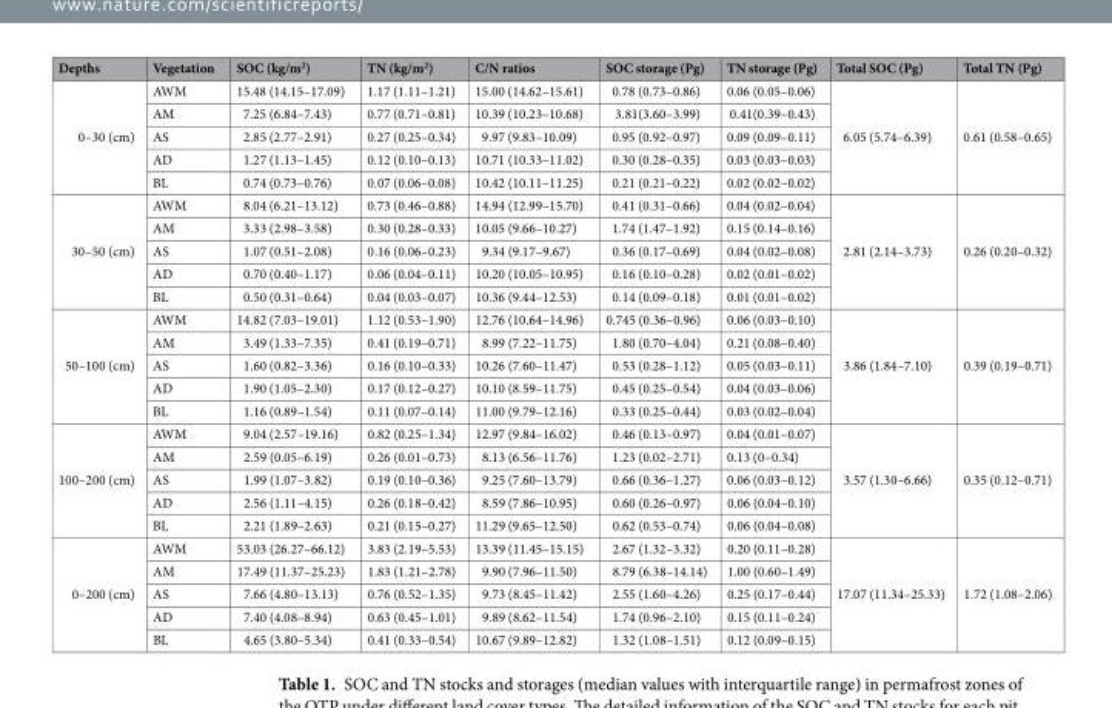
<table><thead><tr><td>Depths</td><td>Vegetation</td><td>SOC (kg/m<sup>2</sup>)</td><td>TN (kg/m<sup>2</sup>)</td><td>C/N ratios</td><td>SOC storage (Pg)</td><td>TN storage (Pg)</td><td>Total SOC (Pg)</td><td>Total TN (Pg)</td></tr></thead><tbody><tr><td rowspan="5">0–30 (cm)</td><td>AWM</td><td>15.48 (14.15–17.09)</td><td>1.17 (1.11–1.21)</td><td>15.00 (14.62–15.61)</td><td>0.78 (0.73–0.86)</td><td>0.06 (0.05–0.06)</td><td rowspan="5">6.05 (5.74–6.39)</td><td rowspan="5">0.61 (0.58–0.65)</td></tr><tr><td>AM</td><td>7.25 (6.84–7.43)</td><td>0.77 (0.71–0.81)</td><td>10.39 (10.23–10.68)</td><td>3.81(3.60–3.99)</td><td>0.41(0.39–0.43)</td></tr><tr><td>AS</td><td>2.85 (2.77–2.91)</td><td>0.27 (0.25–0.34)</td><td>9.97 (9.83–10.09)</td><td>0.95 (0.92–0.97)</td><td>0.09 (0.09–0.11)</td></tr><tr><td>AD</td><td>1.27 (1.13–1.45)</td><td>0.12 (0.10–0.13)</td><td>10.71 (10.33–11.02)</td><td>0.30 (0.28–0.35)</td><td>0.03 (0.03–0.03)</td></tr><tr><td>BL</td><td>0.74 (0.73–0.76)</td><td>0.07 (0.06–0.08)</td><td>10.42 (10.11–11.25)</td><td>0.21 (0.21–0.22)</td><td>0.02 (0.02–0.02)</td></tr><tr><td rowspan="5">30–50 (cm)</td><td>AWM</td><td>8.04 (6.21–13.12)</td><td>0.73 (0.46–0.88)</td><td>14.94 (12.99–15.70)</td><td>0.41 (0.31–0.66)</td><td>0.04 (0.02–0.04)</td><td rowspan="5">2.81 (2.14–3.73)</td><td rowspan="5">0.26 (0.20–0.32)</td></tr><tr><td>AM</td><td>3.33 (2.98–3.58)</td><td>0.30 (0.28–0.33)</td><td>10.05 (9.66–10.27)</td><td>1.74 (1.47–1.92)</td><td>0.15 (0.14–0.16)</td></tr><tr><td>AS</td><td>1.07 (0.51–2.08)</td><td>0.16 (0.06–0.23)</td><td>9.34 (9.17–9.67)</td><td>0.36 (0.17–0.69)</td><td>0.04 (0.02–0.08)</td></tr><tr><td>AD</td><td>0.70 (0.40–1.17)</td><td>0.06 (0.04–0.11)</td><td>10.20 (10.05–10.95)</td><td>0.16 (0.10–0.28)</td><td>0.02 (0.01–0.02)</td></tr><tr><td>BL</td><td>0.50 (0.31–0.64)</td><td>0.04 (0.03–0.07)</td><td>10.36 (9.44–12.53)</td><td>0.14 (0.09–0.18)</td><td>0.01 (0.01–0.02)</td></tr><tr><td rowspan="5">50–100 (cm)</td><td>AWM</td><td>14.82 (7.03–19.01)</td><td>1.12 (0.53–1.90)</td><td>12.76 (10.64–14.96)</td><td>0.745 (0.36–0.96)</td><td>0.06 (0.03–0.10)</td><td rowspan="5">3.86 (1.84–7.10)</td><td rowspan="5">0.39 (0.19–0.71)</td></tr><tr><td>AM</td><td>3.49 (1.33–7.35)</td><td>0.41 (0.19–0.71)</td><td>8.99 (7.22–11.75)</td><td>1.80 (0.70–4.04)</td><td>0.21 (0.08–0.40)</td></tr><tr><td>AS</td><td>1.60 (0.82–3.36)</td><td>0.16 (0.10–0.33)</td><td>10.26 (7.60–11.47)</td><td>0.53 (0.28–1.12)</td><td>0.05 (0.03–0.11)</td></tr><tr><td>AD</td><td>1.90 (1.05–2.30)</td><td>0.17 (0.12–0.27)</td><td>10.10 (8.59–11.75)</td><td>0.45 (0.25–0.54)</td><td>0.04 (0.03–0.06)</td></tr><tr><td>BL</td><td>1.16 (0.89–1.54)</td><td>0.11 (0.07–0.14)</td><td>11.00 (9.79–12.16)</td><td>0.33 (0.25–0.44)</td><td>0.03 (0.02–0.04)</td></tr><tr><td rowspan="5">100–200 (cm)</td><td>AWM</td><td>9.04 (2.57–19.16)</td><td>0.82 (0.25–1.34)</td><td>12.97 (9.84–16.02)</td><td>0.46 (0.13–0.97)</td><td>0.04 (0.01–0.07)</td><td rowspan="5">3.57 (1.30–6.66)</td><td rowspan="5">0.35 (0.12–0.71)</td></tr><tr><td>AM</td><td>2.59 (0.05–6.19)</td><td>0.26 (0.01–0.73)</td><td>8.13 (6.56–11.76)</td><td>1.23 (0.02–2.71)</td><td>0.13 (0–0.34)</td></tr><tr><td>AS</td><td>1.99 (1.07–3.82)</td><td>0.19 (0.10–0.36)</td><td>9.25 (7.60–13.79)</td><td>0.66 (0.36–1.27)</td><td>0.06 (0.03–0.12)</td></tr><tr><td>AD</td><td>2.56 (1.11–4.15)</td><td>0.26 (0.18–0.42)</td><td>8.59 (7.86–10.95)</td><td>0.60 (0.26–0.97)</td><td>0.06 (0.04–0.10)</td></tr><tr><td>BL</td><td>2.21 (1.89–2.63)</td><td>0.21 (0.15–0.27)</td><td>11.29 (9.65–12.50)</td><td>0.62 (0.53–0.74)</td><td>0.06 (0.04–0.08)</td></tr><tr><td rowspan="5">0–200 (cm)</td><td>AWM</td><td>53.03 (26.27–66.12)</td><td>3.83 (2.19–5.53)</td><td>13.39 (11.45–15.15)</td><td>2.67 (1.32–3.32)</td><td>0.20 (0.11–0.28)</td><td rowspan="5">17.07 (11.34–25.33)</td><td rowspan="5">1.72 (1.08–2.06)</td></tr><tr><td>AM</td><td>17.49 (11.37–25.23)</td><td>1.83 (1.21–2.78)</td><td>9.90 (7.96–11.50)</td><td>8.79 (6.38–14.14)</td><td>1.00 (0.60–1.49)</td></tr><tr><td>AS</td><td>7.66 (4.80–13.13)</td><td>0.76 (0.52–1.35)</td><td>9.73 (8.45–11.42)</td><td>2.55 (1.60–4.26)</td><td>0.25 (0.17–0.44)</td></tr><tr><td>AD</td><td>7.40 (4.08–8.94)</td><td>0.63 (0.45–1.01)</td><td>9.89 (8.62–11.54)</td><td>1.74 (0.96–2.10)</td><td>0.15 (0.11–0.24)</td></tr><tr><td>BL</td><td>4.65 (3.80–5.34)</td><td>0.41 (0.33–0.54)</td><td>10.67 (9.89–12.82)</td><td>1.32 (1.08–1.51)</td><td>0.12 (0.09–0.15)</td></tr></tbody></table>